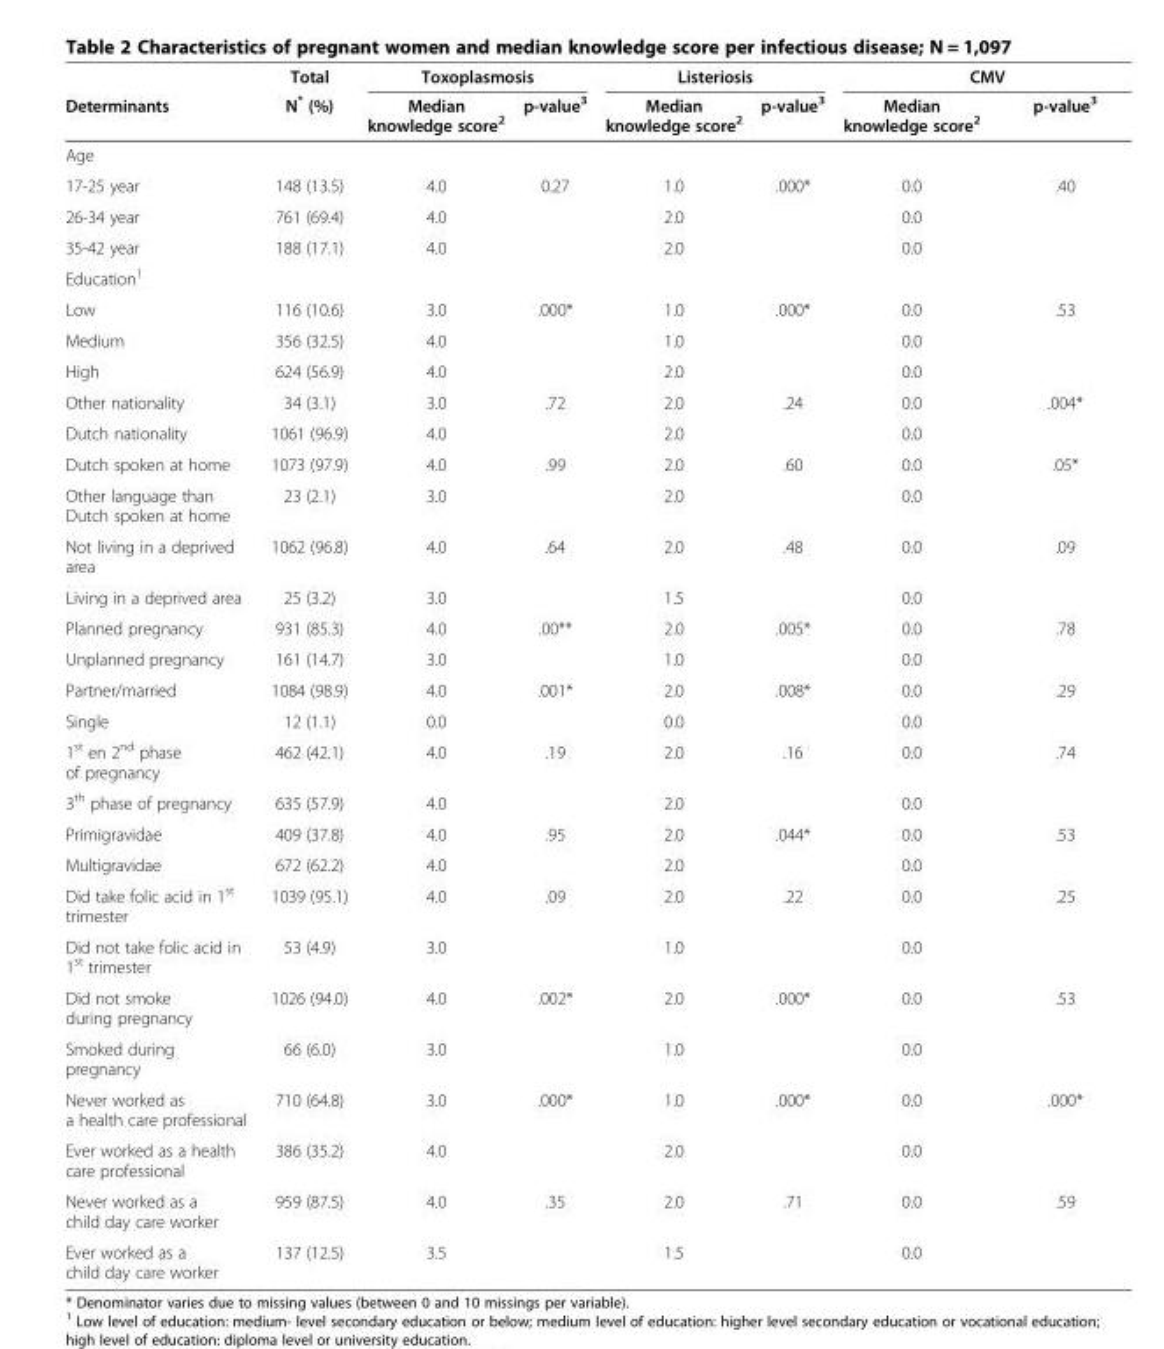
<table><thead><tr><td rowspan="2">Determinants</td><td rowspan="2">Total N* (%)</td><td colspan="2">Toxoplasmosis</td><td colspan="2">Listeriosis</td><td colspan="2">CMV</td></tr><tr><td>Median knowledge score<sup>2</sup></td><td>p-value<sup>3</sup></td><td>Median knowledge score<sup>2</sup></td><td>p-value<sup>3</sup></td><td>Median knowledge score<sup>2</sup></td><td>p-value<sup>3</sup></td></tr></thead><tbody><tr><td colspan="8">Age</td></tr><tr><td>17-25 year</td><td>148 (13.5)</td><td>4.0</td><td rowspan="3">0.27</td><td>1.0</td><td rowspan="3">.000*</td><td>0.0</td><td rowspan="3">.40</td></tr><tr><td>26-34 year</td><td>761 (69.4)</td><td>4.0</td><td>2.0</td><td>0.0</td></tr><tr><td>35-42 year</td><td>188 (17.1)</td><td>4.0</td><td>2.0</td><td>0.0</td></tr><tr><td colspan="8">Education<sup>1</sup></td></tr><tr><td>Low</td><td>116 (10.6)</td><td>3.0</td><td rowspan="3">.000*</td><td>1.0</td><td rowspan="3">.000*</td><td>0.0</td><td rowspan="3">.53</td></tr><tr><td>Medium</td><td>356 (32.5)</td><td>4.0</td><td>1.0</td><td>0.0</td></tr><tr><td>High</td><td>624 (56.9)</td><td>4.0</td><td>2.0</td><td>0.0</td></tr><tr><td>Other nationality</td><td>34 (3.1)</td><td>3.0</td><td rowspan="2">.72</td><td>2.0</td><td rowspan="2">.24</td><td>0.0</td><td rowspan="2">.004*</td></tr><tr><td>Dutch nationality</td><td>1061 (96.9)</td><td>4.0</td><td>2.0</td><td>0.0</td></tr><tr><td>Dutch spoken at home</td><td>1073 (97.9)</td><td>4.0</td><td rowspan="2">.99</td><td>2.0</td><td rowspan="2">.60</td><td>0.0</td><td rowspan="2">.05*</td></tr><tr><td>Other language than Dutch spoken at home</td><td>23 (2.1)</td><td>3.0</td><td>2.0</td><td>0.0</td></tr><tr><td>Not living in a deprived area</td><td>1062 (96.8)</td><td>4.0</td><td rowspan="2">.64</td><td>2.0</td><td rowspan="2">.48</td><td>0.0</td><td rowspan="2">.09</td></tr><tr><td>Living in a deprived area</td><td>25 (3.2)</td><td>3.0</td><td>1.5</td><td>0.0</td></tr><tr><td>Planned pregnancy</td><td>931 (85.3)</td><td>4.0</td><td rowspan="2">.00**</td><td>2.0</td><td rowspan="2">.005*</td><td>0.0</td><td rowspan="2">.78</td></tr><tr><td>Unplanned pregnancy</td><td>161 (14.7)</td><td>3.0</td><td>1.0</td><td>0.0</td></tr><tr><td>Partner/married</td><td>1084 (98.9)</td><td>4.0</td><td rowspan="2">.001*</td><td>2.0</td><td rowspan="2">.008*</td><td>0.0</td><td rowspan="2">.29</td></tr><tr><td>Single</td><td>12 (1.1)</td><td>0.0</td><td>0.0</td><td>0.0</td></tr><tr><td>1<sup>st</sup> en 2<sup>nd</sup> phase of pregnancy</td><td>462 (42.1)</td><td>4.0</td><td rowspan="2">.19</td><td>2.0</td><td rowspan="2">.16</td><td>0.0</td><td rowspan="2">.74</td></tr><tr><td>3<sup>th</sup> phase of pregnancy</td><td>635 (57.9)</td><td>4.0</td><td>2.0</td><td>0.0</td></tr><tr><td>Primigravidae</td><td>409 (37.8)</td><td>4.0</td><td rowspan="2">.95</td><td>2.0</td><td rowspan="2">.044*</td><td>0.0</td><td rowspan="2">.53</td></tr><tr><td>Multigravidae</td><td>672 (62.2)</td><td>4.0</td><td>2.0</td><td>0.0</td></tr><tr><td>Did take folic acid in 1<sup>st</sup> trimester</td><td>1039 (95.1)</td><td>4.0</td><td rowspan="2">.09</td><td>2.0</td><td rowspan="2">.22</td><td>0.0</td><td rowspan="2">.25</td></tr><tr><td>Did not take folic acid in 1<sup>st</sup> trimester</td><td>53 (4.9)</td><td>3.0</td><td>1.0</td><td>0.0</td></tr><tr><td>Did not smoke during pregnancy</td><td>1026 (94.0)</td><td>4.0</td><td rowspan="2">.002*</td><td>2.0</td><td rowspan="2">.000*</td><td>0.0</td><td rowspan="2">.53</td></tr><tr><td>Smoked during pregnancy</td><td>66 (6.0)</td><td>3.0</td><td>1.0</td><td>0.0</td></tr><tr><td>Never worked as a health care professional</td><td>710 (64.8)</td><td>3.0</td><td rowspan="2">.000*</td><td>1.0</td><td rowspan="2">.000*</td><td>0.0</td><td rowspan="2">.000*</td></tr><tr><td>Ever worked as a health care professional</td><td>386 (35.2)</td><td>4.0</td><td>2.0</td><td>0.0</td></tr><tr><td>Never worked as a child day care worker</td><td>959 (87.5)</td><td>4.0</td><td rowspan="2">.35</td><td>2.0</td><td rowspan="2">.71</td><td>0.0</td><td rowspan="2">.59</td></tr><tr><td>Ever worked as a child day care worker</td><td>137 (12.5)</td><td>3.5</td><td>1.5</td><td>0.0</td></tr></tbody></table>